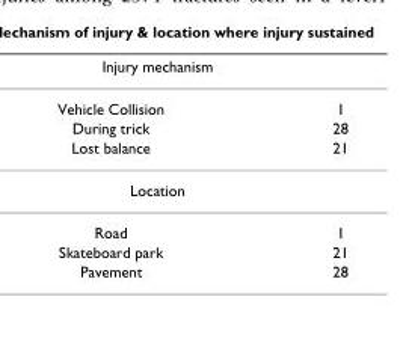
<table><thead><tr><td colspan="2">Injury mechanism</td></tr><tr><td>Vehicle Collision</td><td>1</td></tr></thead><tbody><tr><td>During trick</td><td>28</td></tr><tr><td>Lost balance</td><td>21</td></tr><tr><td colspan="2">Location</td></tr><tr><td>Road</td><td>1</td></tr><tr><td>Skateboard park</td><td>21</td></tr><tr><td>Pavement</td><td>28</td></tr></tbody></table>